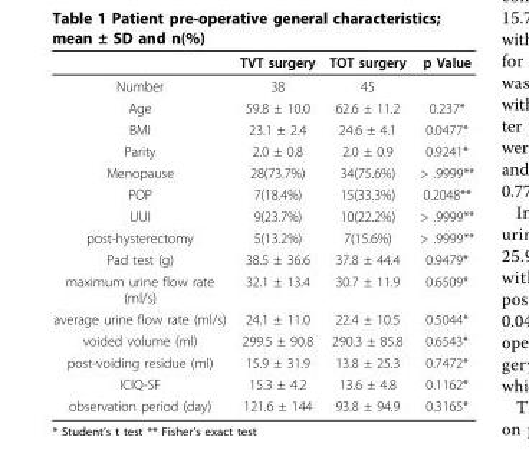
<table><thead><tr><td></td><td>TVT surgery</td><td>TOT surgery</td><td>p Value</td></tr></thead><tbody><tr><td>Number</td><td>38</td><td>45</td><td></td></tr><tr><td>Age</td><td>59.8 ± 10.0</td><td>62.6 ± 11.2</td><td>0.237*</td></tr><tr><td>BMI</td><td>23.1 ± 2.4</td><td>24.6 ± 4.1</td><td>0.0477*</td></tr><tr><td>Parity</td><td>2.0 ± 0.8</td><td>2.0 ± 0.9</td><td>0.9241*</td></tr><tr><td>Menopause</td><td>28(73.7%)</td><td>34(75.6%)</td><td>&gt; .9999**</td></tr><tr><td>POP</td><td>7(18.4%)</td><td>15(33.3%)</td><td>0.2048**</td></tr><tr><td>UUI</td><td>9(23.7%)</td><td>10(22.2%)</td><td>&gt; .9999**</td></tr><tr><td>post-hysterectomy</td><td>5(13.2%)</td><td>7(15.6%)</td><td>&gt; .9999**</td></tr><tr><td>Pad test (g)</td><td>38.5 ± 36.6</td><td>37.8 ± 44.4</td><td>0.9479*</td></tr><tr><td>maximum urine flow rate (ml/s)</td><td>32.1 ± 13.4</td><td>30.7 ± 11.9</td><td>0.6509*</td></tr><tr><td>average urine flow rate (ml/s)</td><td>24.1 ± 11.0</td><td>22.4 ± 10.5</td><td>0.5044*</td></tr><tr><td>voided volume (ml)</td><td>299.5 ± 90.8</td><td>290.3 ± 85.8</td><td>0.6543*</td></tr><tr><td>post-voiding residue (ml)</td><td>15.9 ± 31.9</td><td>13.8 ± 25.3</td><td>0.7472*</td></tr><tr><td>ICIQ-SF</td><td>15.3 ± 4.2</td><td>13.6 ± 4.8</td><td>0.1162*</td></tr><tr><td>observation period (day)</td><td>121.6 ± 144</td><td>93.8 ± 94.9</td><td>0.3165*</td></tr></tbody></table>